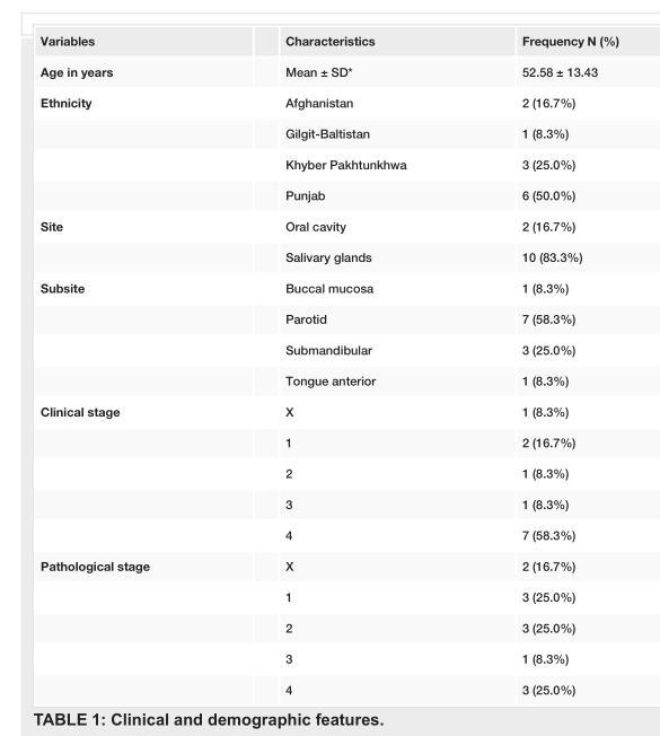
<table><tbody><tr><td>Variables</td><td>Characteristics</td><td>Frequency N (%)</td></tr><tr><td>Age in years</td><td>Mean ± SD*</td><td>52.58 ± 13.43</td></tr><tr><td rowspan="4">Ethnicity</td><td>Afghanistan</td><td>2 (16.7%)</td></tr><tr><td>Gilgit-Baltistan</td><td>1 (8.3%)</td></tr><tr><td>Khyber Pakhtunkhwa</td><td>3 (25.0%)</td></tr><tr><td>Punjab</td><td>6 (50.0%)</td></tr><tr><td rowspan="2">Site</td><td>Oral cavity</td><td>2 (16.7%)</td></tr><tr><td>Salivary glands</td><td>10 (83.3%)</td></tr><tr><td rowspan="4">Subsite</td><td>Buccal mucosa</td><td>1 (8.3%)</td></tr><tr><td>Parotid</td><td>7 (58.3%)</td></tr><tr><td>Submandibular</td><td>3 (25.0%)</td></tr><tr><td>Tongue anterior</td><td>1 (8.3%)</td></tr><tr><td rowspan="5">Clinical stage</td><td>X</td><td>1 (8.3%)</td></tr><tr><td>1</td><td>2 (16.7%)</td></tr><tr><td>2</td><td>1 (8.3%)</td></tr><tr><td>3</td><td>1 (8.3%)</td></tr><tr><td>4</td><td>7 (58.3%)</td></tr><tr><td rowspan="5">Pathological stage</td><td>X</td><td>2 (16.7%)</td></tr><tr><td>1</td><td>3 (25.0%)</td></tr><tr><td>2</td><td>3 (25.0%)</td></tr><tr><td>3</td><td>1 (8.3%)</td></tr><tr><td>4</td><td>3 (25.0%)</td></tr></tbody></table>